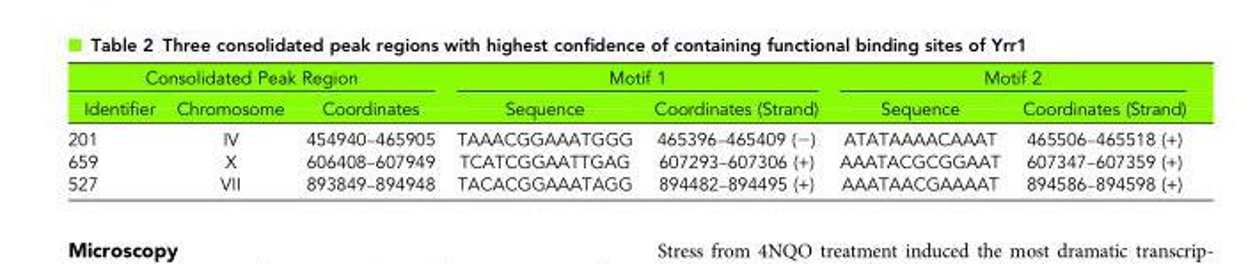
<table><thead><tr><td colspan="3">Consolidated Peak Region</td><td colspan="2">Motif 1</td><td colspan="2">Motif 2</td></tr><tr><td>Identifier</td><td>Chromosome</td><td>Coordinates</td><td>Sequence</td><td>Coordinates (Strand)</td><td>Sequence</td><td>Coordinates (Strand)</td></tr></thead><tbody><tr><td>201</td><td>IV</td><td>454940–465905</td><td>TAAACGGAAATGGG</td><td>465396–465409 (−)</td><td>ATATAAAACAAAT</td><td>465506–465518 (+)</td></tr><tr><td>659</td><td>X</td><td>606408–607949</td><td>TCATCGGAATTGAG</td><td>607293–607306 (+)</td><td>AAATACGCGGAAT</td><td>607347–607359 (+)</td></tr><tr><td>527</td><td>VII</td><td>893849–894948</td><td>TACACGGAAATAGG</td><td>894482–894495 (+)</td><td>AAATAACGAAAAT</td><td>894586–894598 (+)</td></tr></tbody></table>